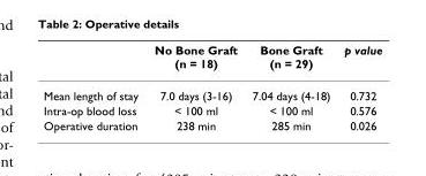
<table><thead><tr><td></td><td>No Bone Graft (n = 18)</td><td>Bone Graft (n = 29)</td><td>p value</td></tr></thead><tbody><tr><td>Mean length of stay</td><td>7.0 days (3-16)</td><td>7.04 days (4-18)</td><td>0.732</td></tr><tr><td>Intra-op blood loss</td><td>&lt; 100 ml</td><td>&lt; 100 ml</td><td>0.576</td></tr><tr><td>Operative duration</td><td>238 min</td><td>285 min</td><td>0.026</td></tr></tbody></table>